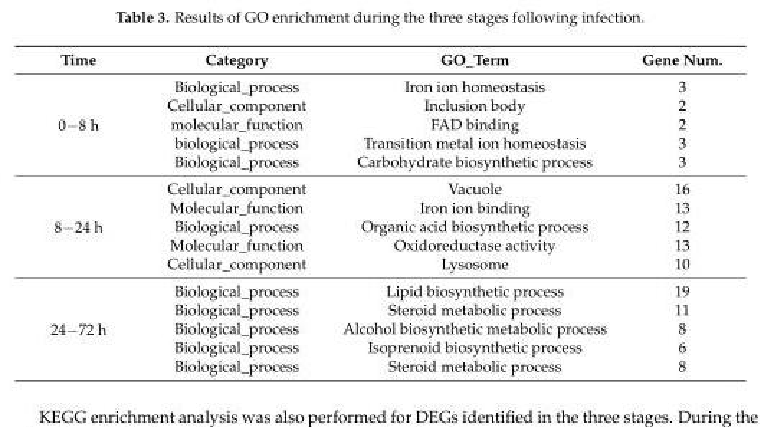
<table><thead><tr><td>Time</td><td>Category</td><td>GO_Term</td><td>Gene Num.</td></tr></thead><tbody><tr><td rowspan="5">0−8 h</td><td>Biological_process</td><td>Iron ion homeostasis</td><td>3</td></tr><tr><td>Cellular_component</td><td>Inclusion body</td><td>2</td></tr><tr><td>molecular_function</td><td>FAD binding</td><td>2</td></tr><tr><td>biological_process</td><td>Transition metal ion homeostasis</td><td>3</td></tr><tr><td>Biological_process</td><td>Carbohydrate biosynthetic process</td><td>3</td></tr><tr><td rowspan="5">8−24 h</td><td>Cellular_component</td><td>Vacuole</td><td>16</td></tr><tr><td>Molecular_function</td><td>Iron ion binding</td><td>13</td></tr><tr><td>Biological_process</td><td>Organic acid biosynthetic process</td><td>12</td></tr><tr><td>Molecular_function</td><td>Oxidoreductase activity</td><td>13</td></tr><tr><td>Cellular_component</td><td>Lysosome</td><td>10</td></tr><tr><td rowspan="5">24−72 h</td><td>Biological_process</td><td>Lipid biosynthetic process</td><td>19</td></tr><tr><td>Biological_process</td><td>Steroid metabolic process</td><td>11</td></tr><tr><td>Biological_process</td><td>Alcohol biosynthetic metabolic process</td><td>8</td></tr><tr><td>Biological_process</td><td>Isoprenoid biosynthetic process</td><td>6</td></tr><tr><td>Biological_process</td><td>Steroid metabolic process</td><td>8</td></tr></tbody></table>